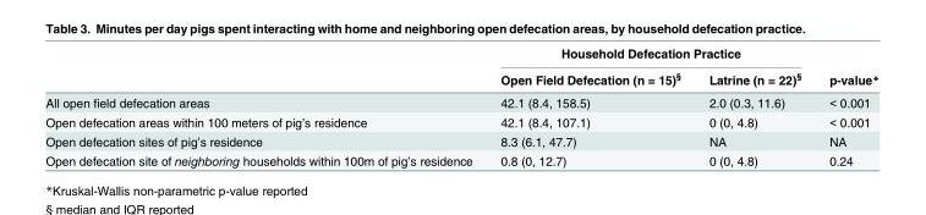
<table><thead><tr><td rowspan="2"></td><td colspan="2">Household Defecation Practice</td><td rowspan="2">p-value*</td></tr><tr><td>Open Field Defecation (n = 15)<sup>§</sup></td><td>Latrine (n = 22)<sup>§</sup></td></tr></thead><tbody><tr><td>All open field defecation areas</td><td>42.1 (8.4, 158.5)</td><td>2.0 (0.3, 11.6)</td><td>&lt; 0.001</td></tr><tr><td>Open defecation areas within 100 meters of pig’s residence</td><td>42.1 (8.4, 107.1)</td><td>0 (0, 4.8)</td><td>&lt; 0.001</td></tr><tr><td>Open defecation sites of pig’s residence</td><td>8.3 (6.1, 47.7)</td><td>NA</td><td>NA</td></tr><tr><td>Open defecation site of neighboring households within 100m of pig’s residence</td><td>0.8 (0, 12.7)</td><td>0 (0, 4.8)</td><td>0.24</td></tr></tbody></table>